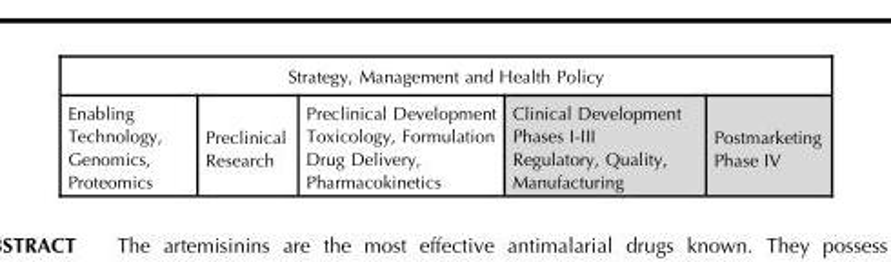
<table><thead><tr><td colspan="5">Strategy, Management and Health Policy</td></tr><tr><td>Enabling Technology, Genomics, Proteomics</td><td>Preclinical Research</td><td>Preclinical Development Toxicology, Formulation Drug Delivery, Pharmacokinetics</td><td>Clinical Development Phases I-III Regulatory, Quality, Manufacturing</td><td>Postmarketing Phase IV</td></tr></thead><tbody></tbody></table>